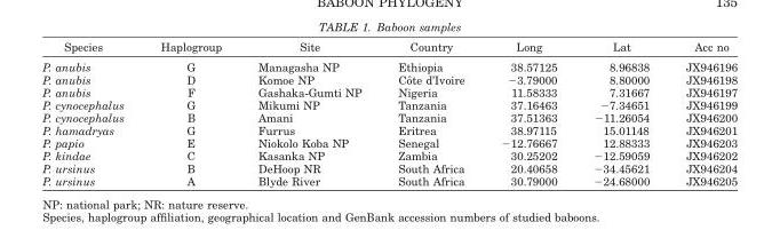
<table><thead><tr><td>Species</td><td>Haplogroup</td><td>Site</td><td>Country</td><td>Long</td><td>Lat</td><td>Acc no</td></tr></thead><tbody><tr><td>P. anubis</td><td>G</td><td>Managasha NP</td><td>Ethiopia</td><td>38.57125</td><td>8.96838</td><td>JX946196</td></tr><tr><td>P. anubis</td><td>D</td><td>Komoe NP</td><td>Coˆte d’Ivoire</td><td>−3.79000</td><td>8.80000</td><td>JX946198</td></tr><tr><td>P. anubis</td><td>F</td><td>Gashaka-Gumti NP</td><td>Nigeria</td><td>11.58333</td><td>7.31667</td><td>JX946197</td></tr><tr><td>P. cynocephalus</td><td>G</td><td>Mikumi NP</td><td>Tanzania</td><td>37.16463</td><td>−7.34651</td><td>JX946199</td></tr><tr><td>P. cynocephalus</td><td>B</td><td>Amani</td><td>Tanzania</td><td>37.51363</td><td>−11.26054</td><td>JX946200</td></tr><tr><td>P. hamadryas</td><td>G</td><td>Furrus</td><td>Eritrea</td><td>38.97115</td><td>15.01148</td><td>JX946201</td></tr><tr><td>P. papio</td><td>E</td><td>Niokolo Koba NP</td><td>Senegal</td><td>−12.76667</td><td>12.88333</td><td>JX946203</td></tr><tr><td>P. kindae</td><td>C</td><td>Kasanka NP</td><td>Zambia</td><td>30.25202</td><td>−12.59059</td><td>JX946202</td></tr><tr><td>P. ursinus</td><td>B</td><td>DeHoop NR</td><td>South Africa</td><td>20.40658</td><td>−34.45621</td><td>JX946204</td></tr><tr><td>P. ursinus</td><td>A</td><td>Blyde River</td><td>South Africa</td><td>30.79000</td><td>−24.68000</td><td>JX946205</td></tr></tbody></table>